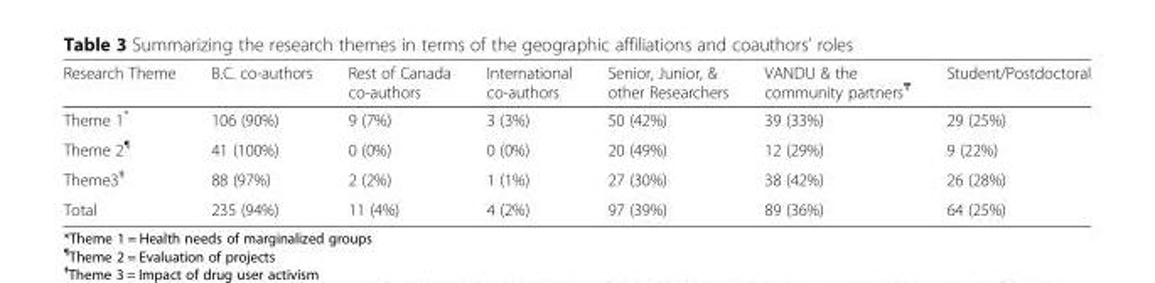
<table><thead><tr><td>Research Theme</td><td>B.C. co-authors</td><td>Rest of Canada co-authors</td><td>International co-authors</td><td>Senior, Junior, &amp; other Researchers</td><td>VANDU &amp; the community partners<sup>₸</sup></td><td>Student/Postdoctoral</td></tr></thead><tbody><tr><td>Theme 1*</td><td>106 (90%)</td><td>9 (7%)</td><td>3 (3%)</td><td>50 (42%)</td><td>39 (33%)</td><td>29 (25%)</td></tr><tr><td>Theme 2<sup>¶</sup></td><td>41 (100%)</td><td>0 (0%)</td><td>0 (0%)</td><td>20 (49%)</td><td>12 (29%)</td><td>9 (22%)</td></tr><tr><td>Theme3<sup>ǂ</sup></td><td>88 (97%)</td><td>2 (2%)</td><td>1 (1%)</td><td>27 (30%)</td><td>38 (42%)</td><td>26 (28%)</td></tr><tr><td>Total</td><td>235 (94%)</td><td>11 (4%)</td><td>4 (2%)</td><td>97 (39%)</td><td>89 (36%)</td><td>64 (25%)</td></tr></tbody></table>